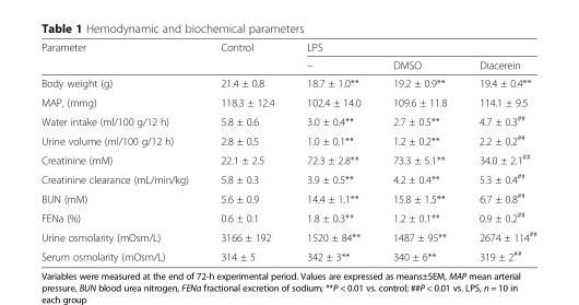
<table><thead><tr><td rowspan="2">Parameter</td><td rowspan="2">Control</td><td colspan="3">LPS</td></tr><tr><td>–</td><td>DMSO</td><td>Diacerein</td></tr></thead><tbody><tr><td>Body weight (g)</td><td>21.4 ± 0.8</td><td>18.7 ± 1.0**</td><td>19.2 ± 0.9**</td><td>19.4 ± 0.4**</td></tr><tr><td>MAP, (mmg)</td><td>118.3 ± 12.4</td><td>102.4 ± 14.0</td><td>109.6 ± 11.8</td><td>114.1 ± 9.5</td></tr><tr><td>Water intake (ml/100 g/12 h)</td><td>5.8 ± 0.6</td><td>3.0 ± 0.4**</td><td>2.7 ± 0.5**</td><td>4.7 ± 0.3##</td></tr><tr><td>Urine volume (ml/100 g/12 h)</td><td>2.8 ± 0.5</td><td>1.0 ± 0.1**</td><td>1.2 ± 0.2**</td><td>2.2 ± 0.2##</td></tr><tr><td>Creatinine (mM)</td><td>22.1 ± 2.5</td><td>72.3 ± 2.8**</td><td>73.3 ± 5.1**</td><td>34.0 ± 2.1##</td></tr><tr><td>Creatinine clearance (mL/min/kg)</td><td>5.8 ± 0.3</td><td>3.9 ± 0.5**</td><td>4.2 ± 0.4**</td><td>5.3 ± 0.4##</td></tr><tr><td>BUN (mM)</td><td>5.6 ± 0.9</td><td>14.4 ± 1.1**</td><td>15.8 ± 1.5**</td><td>6.7 ± 0.8##</td></tr><tr><td>FENa (%)</td><td>0.6 ± 0.1</td><td>1.8 ± 0.3**</td><td>1.2 ± 0.1**</td><td>0.9 ± 0.2##</td></tr><tr><td>Urine osmolarity (mOsm/L)</td><td>3166 ± 192</td><td>1520 ± 84**</td><td>1487 ± 95**</td><td>2674 ± 114##</td></tr><tr><td>Serum osmolarity (mOsm/L)</td><td>314 ± 5</td><td>342 ± 3**</td><td>340 ± 6**</td><td>319 ± 2##</td></tr></tbody></table>